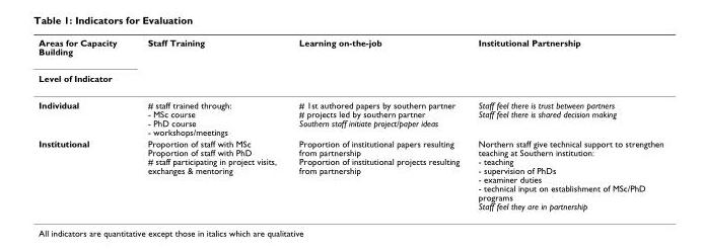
<table><thead><tr><td rowspan="2">Areas for Capacity Building Level of Indicator</td><td rowspan="2">Staff Training</td><td rowspan="2">Learning on-the-job</td><td rowspan="2">Institutional Partnership</td></tr><tr></tr></thead><tbody><tr><td>Individual</td><td># staff trained through: - MSc course - PhD course - workshops/meetings</td><td># 1st authored papers by southern partner # projects led by southern partner Southern staff initiate project/paper ideas</td><td>Staff feel there is trust between partners Staff feel there is shared decision making</td></tr><tr><td>Institutional</td><td>Proportion of staff with MSc Proportion of staff with PhD # staff participating in project visits, exchanges &amp; mentoring</td><td>Proportion of institutional papers resulting from partnership Proportion of institutional projects resulting from partnership</td><td>Northern staff give technical support to strengthen teaching at Southern institution: - teaching - supervision of PhDs - examiner duties - technical input on establishment of MSc/PhD programs Staff feel they are in partnership</td></tr></tbody></table>